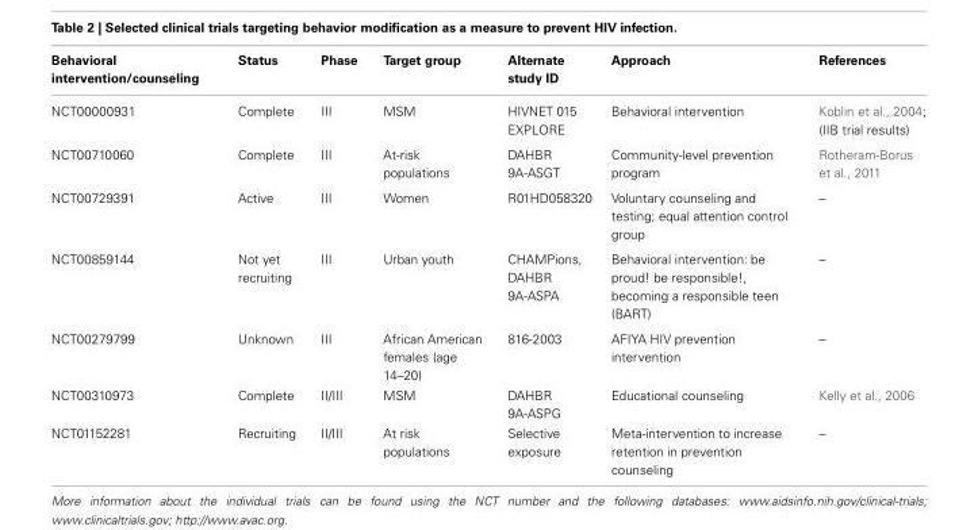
<table><thead><tr><td>Behavioral intervention/counseling</td><td>Status</td><td>Phase</td><td>Target group</td><td>Alternate study ID</td><td>Approach</td><td>References</td></tr></thead><tbody><tr><td>NCT00000931</td><td>Complete</td><td>III</td><td>MSM</td><td>HIVNET 015 EXPLORE</td><td>Behavioral intervention</td><td>Koblin et al., 2004; (IIB trial results)</td></tr><tr><td>NCT00710060</td><td>Complete</td><td>III</td><td>At-risk populations</td><td>DAHBR 9A-ASGT</td><td>Community-level prevention program</td><td>Rotheram-Borus et al., 2011</td></tr><tr><td>NCT00729391</td><td>Active</td><td>III</td><td>Women</td><td>R01HD058320</td><td>Voluntary counseling and testing; equal attention control group</td><td>–</td></tr><tr><td>NCT00859144</td><td>Not yet recruiting</td><td>III</td><td>Urban youth</td><td>CHAMPions, DAHBR 9A-ASPA</td><td>Behavioral intervention: be proud! be responsible!, becoming a responsible teen (BART)</td><td>–</td></tr><tr><td>NCT00279799</td><td>Unknown</td><td>III</td><td>African American females (age 14–20)</td><td>816-2003</td><td>AFIYA HIV prevention intervention</td><td>–</td></tr><tr><td>NCT00310973</td><td>Complete</td><td>II/III</td><td>MSM</td><td>DAHBR 9A-ASPG</td><td>Educational counseling</td><td>Kelly et al., 2006</td></tr><tr><td>NCT01152281</td><td>Recruiting</td><td>II/III</td><td>At risk populations</td><td>Selective exposure</td><td>Meta-intervention to increase retention in prevention counseling</td><td>–</td></tr></tbody></table>